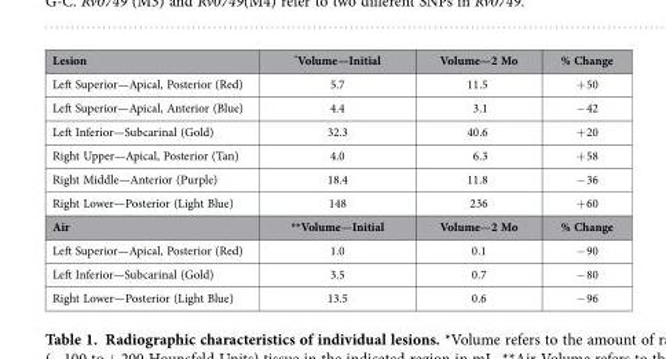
<table><thead><tr><td>Lesion</td><td>*Volume—Initial</td><td>Volume—2 Mo</td><td>% Change</td></tr></thead><tbody><tr><td>Left Superior—Apical, Posterior (Red)</td><td>5.7</td><td>11.5</td><td>+ 50</td></tr><tr><td>Left Superior—Apical, Anterior (Blue)</td><td>4.4</td><td>3.1</td><td>− 42</td></tr><tr><td>Left Inferior—Subcarinal (Gold)</td><td>32.3</td><td>40.6</td><td>+ 20</td></tr><tr><td>Right Upper—Apical, Posterior (Tan)</td><td>4.0</td><td>6.3</td><td>+ 58</td></tr><tr><td>Right Middle—Anterior (Purple)</td><td>18.4</td><td>11.8</td><td>− 36</td></tr><tr><td>Right Lower—Posterior (Light Blue)</td><td>148</td><td>236</td><td>+ 60</td></tr><tr><td>Air</td><td>**Volume—Initial</td><td>Volume—2 Mo</td><td>% Change</td></tr><tr><td>Left Superior—Apical, Posterior (Red)</td><td>1.0</td><td>0.1</td><td>− 90</td></tr><tr><td>Left Inferior—Subcarinal (Gold)</td><td>3.5</td><td>0.7</td><td>− 80</td></tr><tr><td>Right Lower—Posterior (Light Blue)</td><td>13.5</td><td>0.6</td><td>− 96</td></tr></tbody></table>